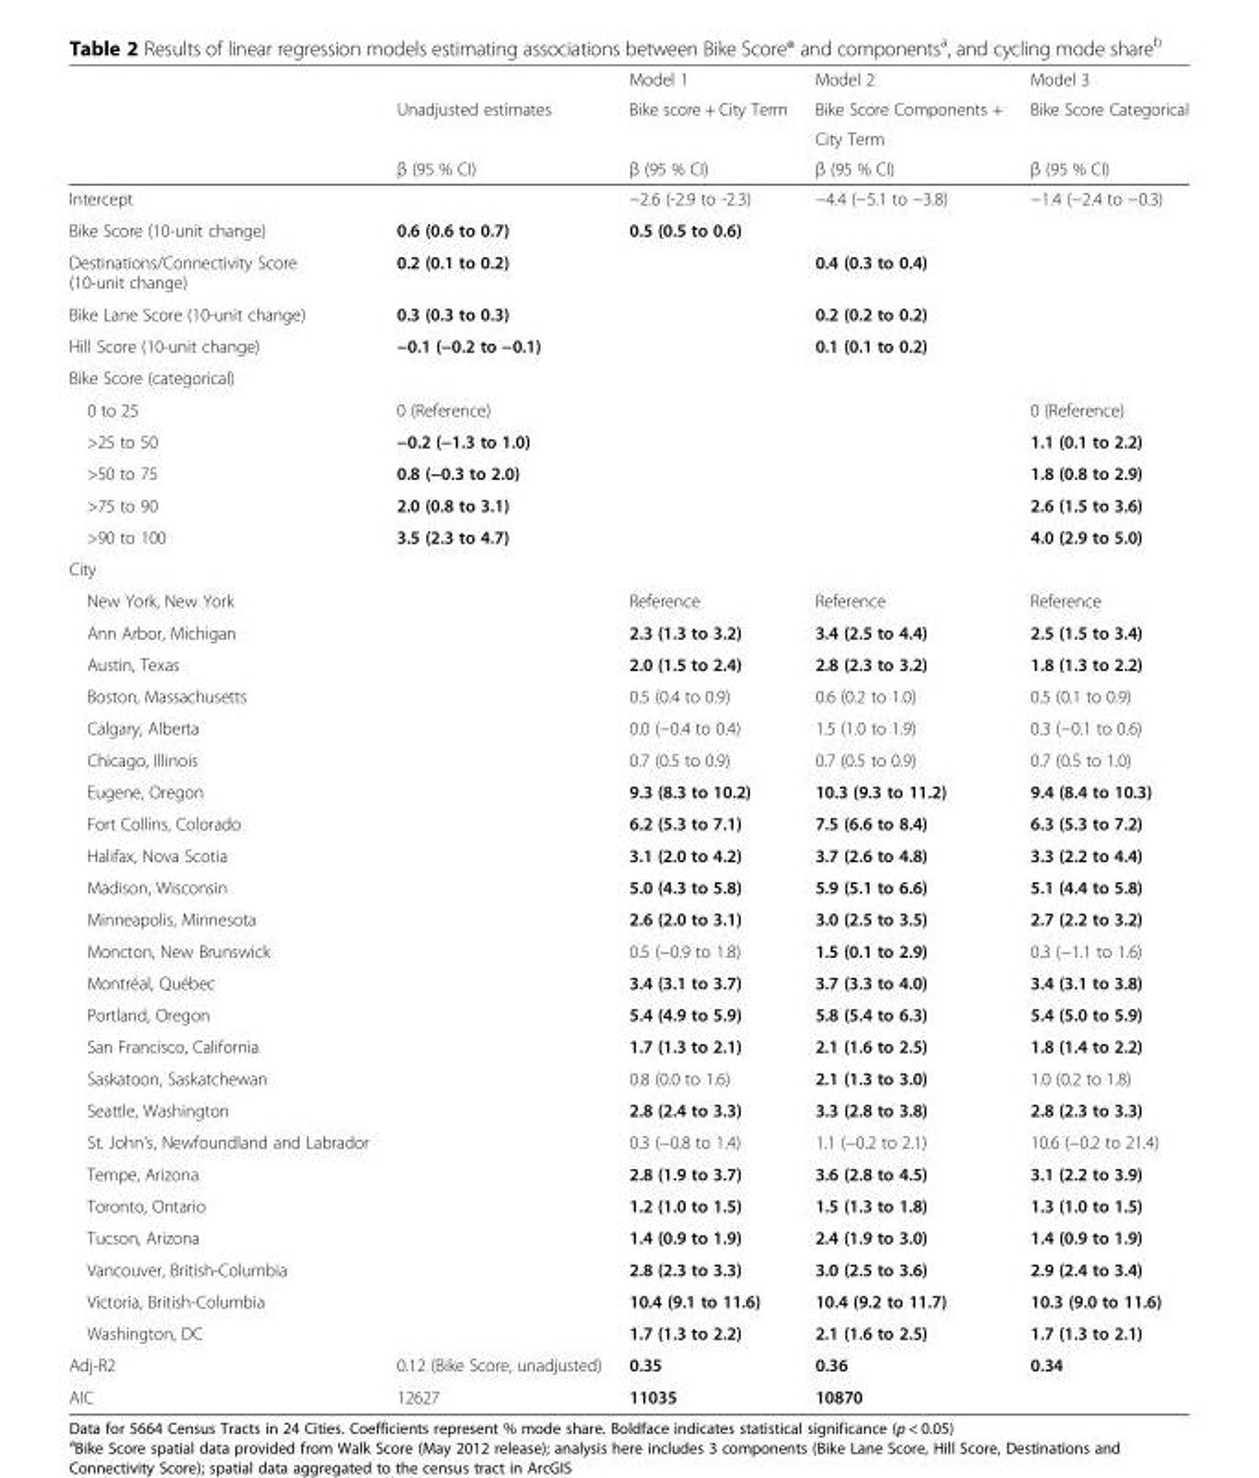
<table><thead><tr><td rowspan="4"></td><td rowspan="4">Unadjusted estimates β (95 % CI)</td><td rowspan="4">Model 1 Bike score + City Term β (95 % CI)</td><td rowspan="4">Model 2 Bike Score Components + City Term β (95 % CI)</td><td rowspan="4">Model 3 Bike Score Categorical β (95 % CI)</td></tr><tr></tr><tr></tr><tr></tr></thead><tbody><tr><td>Intercept</td><td></td><td>−2.6 (-2.9 to -2.3)</td><td>−4.4 (−5.1 to −3.8)</td><td>−1.4 (−2.4 to −0.3)</td></tr><tr><td>Bike Score (10-unit change)</td><td>0.6 (0.6 to 0.7)</td><td>0.5 (0.5 to 0.6)</td><td></td><td></td></tr><tr><td>Destinations/Connectivity Score (10-unit change)</td><td>0.2 (0.1 to 0.2)</td><td></td><td>0.4 (0.3 to 0.4)</td><td></td></tr><tr><td>Bike Lane Score (10-unit change)</td><td>0.3 (0.3 to 0.3)</td><td></td><td>0.2 (0.2 to 0.2)</td><td></td></tr><tr><td>Hill Score (10-unit change)</td><td>−0.1 (−0.2 to −0.1)</td><td></td><td>0.1 (0.1 to 0.2)</td><td></td></tr><tr><td colspan="5">Bike Score (categorical)</td></tr><tr><td>0 to 25</td><td>0 (Reference)</td><td></td><td></td><td>0 (Reference)</td></tr><tr><td>&gt;25 to 50</td><td>−0.2 (−1.3 to 1.0)</td><td></td><td></td><td>1.1 (0.1 to 2.2)</td></tr><tr><td>&gt;50 to 75</td><td>0.8 (−0.3 to 2.0)</td><td></td><td></td><td>1.8 (0.8 to 2.9)</td></tr><tr><td>&gt;75 to 90</td><td>2.0 (0.8 to 3.1)</td><td></td><td></td><td>2.6 (1.5 to 3.6)</td></tr><tr><td>&gt;90 to 100</td><td>3.5 (2.3 to 4.7)</td><td></td><td></td><td>4.0 (2.9 to 5.0)</td></tr><tr><td colspan="5">City</td></tr><tr><td>New York, New York</td><td></td><td>Reference</td><td>Reference</td><td>Reference</td></tr><tr><td>Ann Arbor, Michigan</td><td></td><td>2.3 (1.3 to 3.2)</td><td>3.4 (2.5 to 4.4)</td><td>2.5 (1.5 to 3.4)</td></tr><tr><td>Austin, Texas</td><td></td><td>2.0 (1.5 to 2.4)</td><td>2.8 (2.3 to 3.2)</td><td>1.8 (1.3 to 2.2)</td></tr><tr><td>Boston, Massachusetts</td><td></td><td>0.5 (0.4 to 0.9)</td><td>0.6 (0.2 to 1.0)</td><td>0.5 (0.1 to 0.9)</td></tr><tr><td>Calgary, Alberta</td><td></td><td>0.0 (−0.4 to 0.4)</td><td>1.5 (1.0 to 1.9)</td><td>0.3 (−0.1 to 0.6)</td></tr><tr><td>Chicago, Illinois</td><td></td><td>0.7 (0.5 to 0.9)</td><td>0.7 (0.5 to 0.9)</td><td>0.7 (0.5 to 1.0)</td></tr><tr><td>Eugene, Oregon</td><td></td><td>9.3 (8.3 to 10.2)</td><td>10.3 (9.3 to 11.2)</td><td>9.4 (8.4 to 10.3)</td></tr><tr><td>Fort Collins, Colorado</td><td></td><td>6.2 (5.3 to 7.1)</td><td>7.5 (6.6 to 8.4)</td><td>6.3 (5.3 to 7.2)</td></tr><tr><td>Halifax, Nova Scotia</td><td></td><td>3.1 (2.0 to 4.2)</td><td>3.7 (2.6 to 4.8)</td><td>3.3 (2.2 to 4.4)</td></tr><tr><td>Madison, Wisconsin</td><td></td><td>5.0 (4.3 to 5.8)</td><td>5.9 (5.1 to 6.6)</td><td>5.1 (4.4 to 5.8)</td></tr><tr><td>Minneapolis, Minnesota</td><td></td><td>2.6 (2.0 to 3.1)</td><td>3.0 (2.5 to 3.5)</td><td>2.7 (2.2 to 3.2)</td></tr><tr><td>Moncton, New Brunswick</td><td></td><td>0.5 (−0.9 to 1.8)</td><td>1.5 (0.1 to 2.9)</td><td>0.3 (−1.1 to 1.6)</td></tr><tr><td>Montréal, Québec</td><td></td><td>3.4 (3.1 to 3.7)</td><td>3.7 (3.3 to 4.0)</td><td>3.4 (3.1 to 3.8)</td></tr><tr><td>Portland, Oregon</td><td></td><td>5.4 (4.9 to 5.9)</td><td>5.8 (5.4 to 6.3)</td><td>5.4 (5.0 to 5.9)</td></tr><tr><td>San Francisco, California</td><td></td><td>1.7 (1.3 to 2.1)</td><td>2.1 (1.6 to 2.5)</td><td>1.8 (1.4 to 2.2)</td></tr><tr><td>Saskatoon, Saskatchewan</td><td></td><td>0.8 (0.0 to 1.6)</td><td>2.1 (1.3 to 3.0)</td><td>1.0 (0.2 to 1.8)</td></tr><tr><td>Seattle, Washington</td><td></td><td>2.8 (2.4 to 3.3)</td><td>3.3 (2.8 to 3.8)</td><td>2.8 (2.3 to 3.3)</td></tr><tr><td>St. John’s, Newfoundland and Labrador</td><td></td><td>0.3 (−0.8 to 1.4)</td><td>1.1 (−0.2 to 2.1)</td><td>10.6 (−0.2 to 21.4)</td></tr><tr><td>Tempe, Arizona</td><td></td><td>2.8 (1.9 to 3.7)</td><td>3.6 (2.8 to 4.5)</td><td>3.1 (2.2 to 3.9)</td></tr><tr><td>Toronto, Ontario</td><td></td><td>1.2 (1.0 to 1.5)</td><td>1.5 (1.3 to 1.8)</td><td>1.3 (1.0 to 1.5)</td></tr><tr><td>Tucson, Arizona</td><td></td><td>1.4 (0.9 to 1.9)</td><td>2.4 (1.9 to 3.0)</td><td>1.4 (0.9 to 1.9)</td></tr><tr><td>Vancouver, British-Columbia</td><td></td><td>2.8 (2.3 to 3.3)</td><td>3.0 (2.5 to 3.6)</td><td>2.9 (2.4 to 3.4)</td></tr><tr><td>Victoria, British-Columbia</td><td></td><td>10.4 (9.1 to 11.6)</td><td>10.4 (9.2 to 11.7)</td><td>10.3 (9.0 to 11.6)</td></tr><tr><td>Washington, DC</td><td></td><td>1.7 (1.3 to 2.2)</td><td>2.1 (1.6 to 2.5)</td><td>1.7 (1.3 to 2.1)</td></tr><tr><td>Adj-R2</td><td>0.12 (Bike Score, unadjusted)</td><td>0.35</td><td>0.36</td><td>0.34</td></tr><tr><td>AIC</td><td>12627</td><td>11035</td><td>10870</td><td></td></tr></tbody></table>